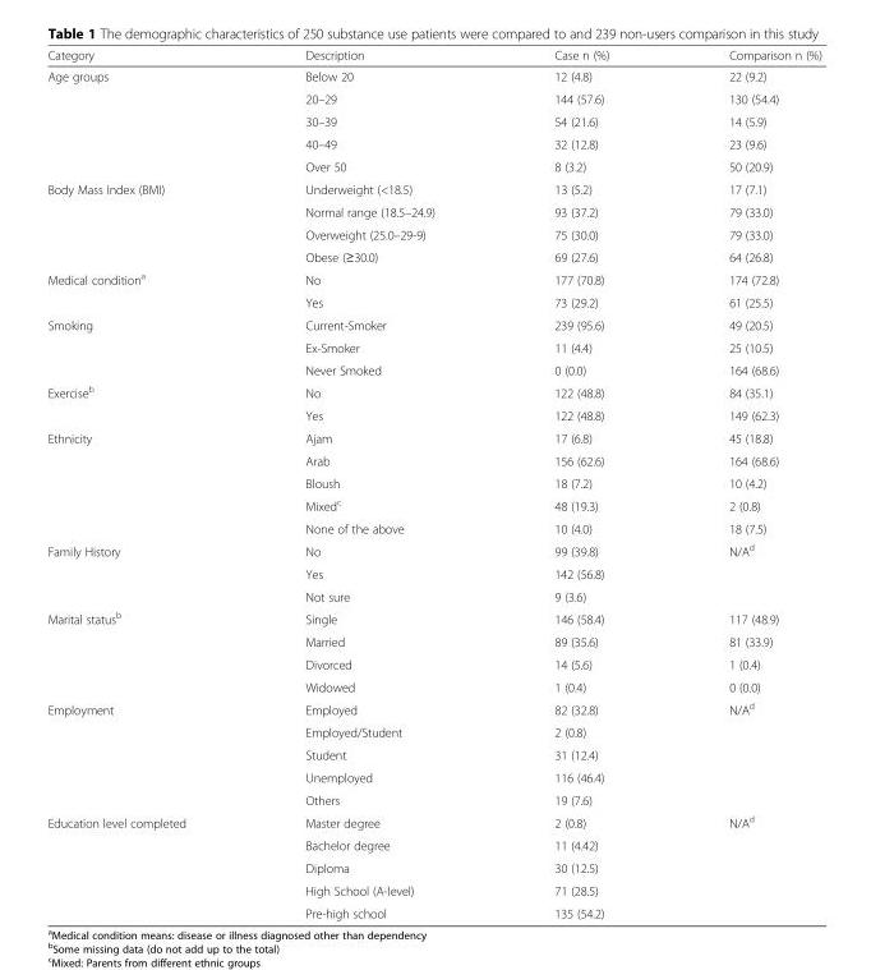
<table><thead><tr><td>Category</td><td>Description</td><td>Case n (%)</td><td>Comparison n (%)</td></tr></thead><tbody><tr><td rowspan="5">Age groups</td><td>Below 20</td><td>12 (4.8)</td><td>22 (9.2)</td></tr><tr><td>20–29</td><td>144 (57.6)</td><td>130 (54.4)</td></tr><tr><td>30–39</td><td>54 (21.6)</td><td>14 (5.9)</td></tr><tr><td>40–49</td><td>32 (12.8)</td><td>23 (9.6)</td></tr><tr><td>Over 50</td><td>8 (3.2)</td><td>50 (20.9)</td></tr><tr><td rowspan="4">Body Mass Index (BMI)</td><td>Underweight (&lt;18.5)</td><td>13 (5.2)</td><td>17 (7.1)</td></tr><tr><td>Normal range (18.5–24.9)</td><td>93 (37.2)</td><td>79 (33.0)</td></tr><tr><td>Overweight (25.0–29-9)</td><td>75 (30.0)</td><td>79 (33.0)</td></tr><tr><td>Obese (≥30.0)</td><td>69 (27.6)</td><td>64 (26.8)</td></tr><tr><td rowspan="2">Medical condition<sup>a</sup></td><td>No</td><td>177 (70.8)</td><td>174 (72.8)</td></tr><tr><td>Yes</td><td>73 (29.2)</td><td>61 (25.5)</td></tr><tr><td rowspan="3">Smoking</td><td>Current-Smoker</td><td>239 (95.6)</td><td>49 (20.5)</td></tr><tr><td>Ex-Smoker</td><td>11 (4.4)</td><td>25 (10.5)</td></tr><tr><td>Never Smoked</td><td>0 (0.0)</td><td>164 (68.6)</td></tr><tr><td rowspan="2">Exercise<sup>b</sup></td><td>No</td><td>122 (48.8)</td><td>84 (35.1)</td></tr><tr><td>Yes</td><td>122 (48.8)</td><td>149 (62.3)</td></tr><tr><td rowspan="5">Ethnicity</td><td>Ajam</td><td>17 (6.8)</td><td>45 (18.8)</td></tr><tr><td>Arab</td><td>156 (62.6)</td><td>164 (68.6)</td></tr><tr><td>Bloush</td><td>18 (7.2)</td><td>10 (4.2)</td></tr><tr><td>Mixed<sup>c</sup></td><td>48 (19.3)</td><td>2 (0.8)</td></tr><tr><td>None of the above</td><td>10 (4.0)</td><td>18 (7.5)</td></tr><tr><td rowspan="3">Family History</td><td>No</td><td>99 (39.8)</td><td rowspan="3">N/A<sup>d</sup></td></tr><tr><td>Yes</td><td>142 (56.8)</td></tr><tr><td>Not sure</td><td>9 (3.6)</td></tr><tr><td rowspan="4">Marital status<sup>b</sup></td><td>Single</td><td>146 (58.4)</td><td>117 (48.9)</td></tr><tr><td>Married</td><td>89 (35.6)</td><td>81 (33.9)</td></tr><tr><td>Divorced</td><td>14 (5.6)</td><td>1 (0.4)</td></tr><tr><td>Widowed</td><td>1 (0.4)</td><td>0 (0.0)</td></tr><tr><td rowspan="5">Employment</td><td>Employed</td><td>82 (32.8)</td><td rowspan="5">N/A<sup>d</sup></td></tr><tr><td>Employed/Student</td><td>2 (0.8)</td></tr><tr><td>Student</td><td>31 (12.4)</td></tr><tr><td>Unemployed</td><td>116 (46.4)</td></tr><tr><td>Others</td><td>19 (7.6)</td></tr><tr><td rowspan="5">Education level completed</td><td>Master degree</td><td>2 (0.8)</td><td rowspan="5">N/A<sup>d</sup></td></tr><tr><td>Bachelor degree</td><td>11 (4.42)</td></tr><tr><td>Diploma</td><td>30 (12.5)</td></tr><tr><td>High School (A-level)</td><td>71 (28.5)</td></tr><tr><td>Pre-high school</td><td>135 (54.2)</td></tr></tbody></table>